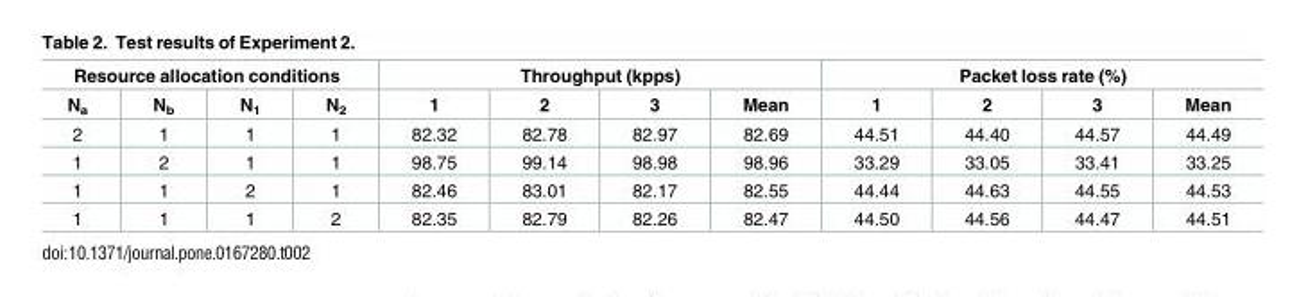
<table><thead><tr><td colspan="4">Resource allocation conditions</td><td colspan="4">Throughput (kpps)</td><td colspan="4">Packet loss rate (%)</td></tr><tr><td>N<sub>a</sub></td><td>N<sub>b</sub></td><td>N<sub>1</sub></td><td>N<sub>2</sub></td><td>1</td><td>2</td><td>3</td><td>Mean</td><td>1</td><td>2</td><td>3</td><td>Mean</td></tr></thead><tbody><tr><td>2</td><td>1</td><td>1</td><td>1</td><td>82.32</td><td>82.78</td><td>82.97</td><td>82.69</td><td>44.51</td><td>44.40</td><td>44.57</td><td>44.49</td></tr><tr><td>1</td><td>2</td><td>1</td><td>1</td><td>98.75</td><td>99.14</td><td>98.98</td><td>98.96</td><td>33.29</td><td>33.05</td><td>33.41</td><td>33.25</td></tr><tr><td>1</td><td>1</td><td>2</td><td>1</td><td>82.46</td><td>83.01</td><td>82.17</td><td>82.55</td><td>44.44</td><td>44.63</td><td>44.55</td><td>44.53</td></tr><tr><td>1</td><td>1</td><td>1</td><td>2</td><td>82.35</td><td>82.79</td><td>82.26</td><td>82.47</td><td>44.50</td><td>44.56</td><td>44.47</td><td>44.51</td></tr></tbody></table>